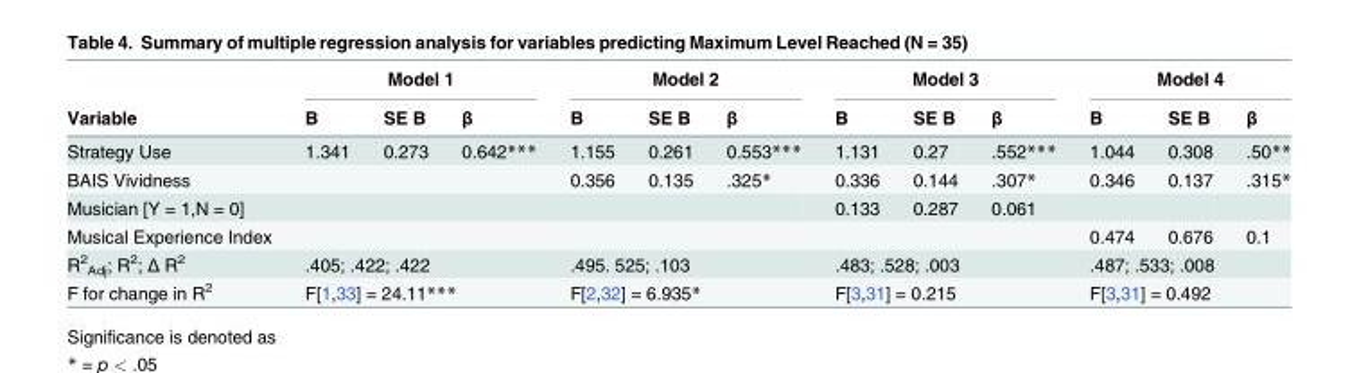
<table><thead><tr><td rowspan="2">Variable</td><td colspan="3">Model 1</td><td colspan="3">Model 2</td><td colspan="3">Model 3</td><td colspan="3">Model 4</td></tr><tr><td>B</td><td>SE B</td><td>β</td><td>B</td><td>SE B</td><td>β</td><td>B</td><td>SE B</td><td>β</td><td>B</td><td>SE B</td><td>β</td></tr></thead><tbody><tr><td>Strategy Use</td><td>1.341</td><td>0.273</td><td>0.642***</td><td>1.155</td><td>0.261</td><td>0.553***</td><td>1.131</td><td>0.27</td><td>.552***</td><td>1.044</td><td>0.308</td><td>.50**</td></tr><tr><td>BAIS Vividness</td><td></td><td></td><td></td><td>0.356</td><td>0.135</td><td>.325*</td><td>0.336</td><td>0.144</td><td>.307*</td><td>0.346</td><td>0.137</td><td>.315*</td></tr><tr><td>Musician [Y = 1,N = 0]</td><td></td><td></td><td></td><td></td><td></td><td></td><td>0.133</td><td>0.287</td><td>0.061</td><td></td><td></td><td></td></tr><tr><td>Musical Experience Index</td><td></td><td></td><td></td><td></td><td></td><td></td><td></td><td></td><td></td><td>0.474</td><td>0.676</td><td>0.1</td></tr><tr><td>R<sup>2</sup> <sub>Adj</sub>; R<sup>2</sup>; Δ R<sup>2</sup></td><td colspan="3">.405; .422; .422</td><td colspan="3">.495. 525; .103</td><td colspan="3">.483; .528; .003</td><td colspan="3">.487; .533; .008</td></tr><tr><td>F for change in R<sup>2</sup></td><td colspan="3">F[1,33] = 24.11***</td><td colspan="3">F[2,32] = 6.935*</td><td colspan="3">F[3,31] = 0.215</td><td colspan="3">F[3,31] = 0.492</td></tr></tbody></table>